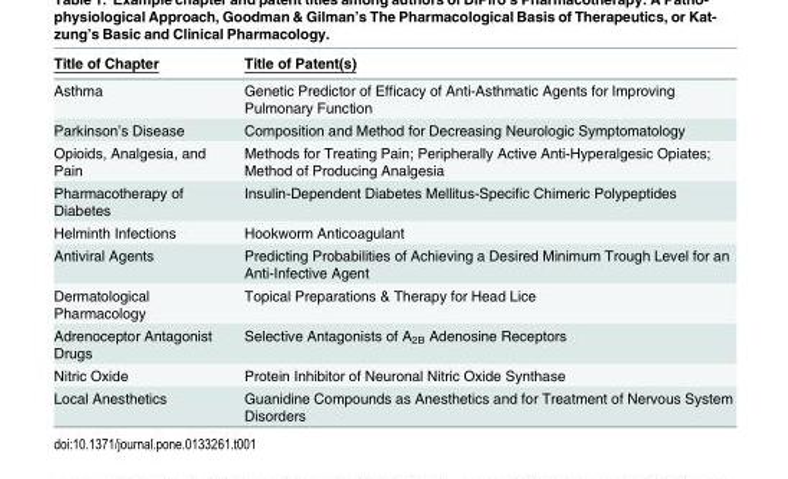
<table><thead><tr><td>Title of Chapter</td><td>Title of Patent(s)</td></tr></thead><tbody><tr><td>Asthma</td><td>Genetic Predictor of Efficacy of Anti-Asthmatic Agents for Improving Pulmonary Function</td></tr><tr><td>Parkinson’s Disease</td><td>Composition and Method for Decreasing Neurologic Symptomatology</td></tr><tr><td>Opioids, Analgesia, and Pain</td><td>Methods for Treating Pain; Peripherally Active Anti-Hyperalgesic Opiates; Method of Producing Analgesia</td></tr><tr><td>Pharmacotherapy of Diabetes</td><td>Insulin-Dependent Diabetes Mellitus-Specific Chimeric Polypeptides</td></tr><tr><td>Helminth Infections</td><td>Hookworm Anticoagulant</td></tr><tr><td>Antiviral Agents</td><td>Predicting Probabilities of Achieving a Desired Minimum Trough Level for an Anti-Infective Agent</td></tr><tr><td>Dermatological Pharmacology</td><td>Topical Preparations &amp; Therapy for Head Lice</td></tr><tr><td>Adrenoceptor Antagonist Drugs</td><td>Selective Antagonists of A<sub>2B</sub> Adenosine Receptors</td></tr><tr><td>Nitric Oxide</td><td>Protein Inhibitor of Neuronal Nitric Oxide Synthase</td></tr><tr><td>Local Anesthetics</td><td>Guanidine Compounds as Anesthetics and for Treatment of Nervous System Disorders</td></tr></tbody></table>